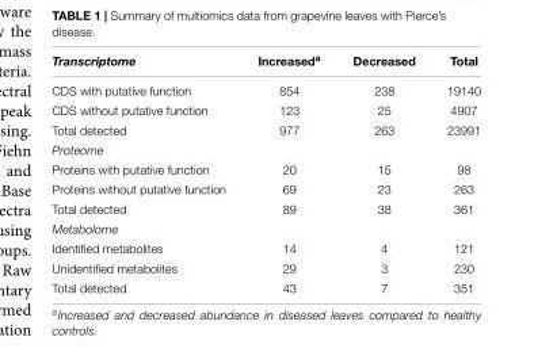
<table><thead><tr><td>Transcriptome</td><td>Increased<sup>a</sup></td><td>Decreased</td><td>Total</td></tr></thead><tbody><tr><td>CDS with putative function</td><td>854</td><td>238</td><td>19140</td></tr><tr><td>CDS without putative function</td><td>123</td><td>25</td><td>4907</td></tr><tr><td>Total detected</td><td>977</td><td>263</td><td>23991</td></tr><tr><td colspan="4">Proteome</td></tr><tr><td>Proteins with putative function</td><td>20</td><td>15</td><td>98</td></tr><tr><td>Proteins without putative function</td><td>69</td><td>23</td><td>263</td></tr><tr><td>Total detected</td><td>89</td><td>38</td><td>361</td></tr><tr><td colspan="4">Metabolome</td></tr><tr><td>Identified metabolites</td><td>14</td><td>4</td><td>121</td></tr><tr><td>Unidentified metabolites</td><td>29</td><td>3</td><td>230</td></tr><tr><td>Total detected</td><td>43</td><td>7</td><td>351</td></tr></tbody></table>